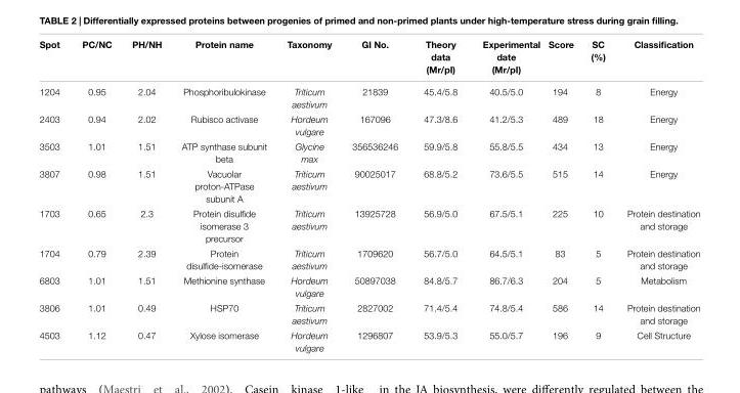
<table><thead><tr><td>Spot</td><td>PC/NC</td><td>PH/NH</td><td>Protein name</td><td>Taxonomy</td><td>GI No.</td><td>Theory data (Mr/pI)</td><td>Experimental date (Mr/pI)</td><td>Score</td><td>SC (%)</td><td>Classification</td></tr></thead><tbody><tr><td>1204</td><td>0.95</td><td>2.04</td><td>Phosphoribulokinase</td><td>Triticum aestivum</td><td>21839</td><td>45.4/5.8</td><td>40.5/5.0</td><td>194</td><td>8</td><td>Energy</td></tr><tr><td>2403</td><td>0.94</td><td>2.02</td><td>Rubisco activase</td><td>Hordeum vulgare</td><td>167096</td><td>47.3/8.6</td><td>41.2/5.3</td><td>489</td><td>18</td><td>Energy</td></tr><tr><td>3503</td><td>1.01</td><td>1.51</td><td>ATP synthase subunit beta</td><td>Glycine max</td><td>356536246</td><td>59.9/5.8</td><td>55.8/5.5</td><td>434</td><td>13</td><td>Energy</td></tr><tr><td>3807</td><td>0.98</td><td>1.51</td><td>Vacuolar proton-ATPase subunit A</td><td>Triticum aestivum</td><td>90025017</td><td>68.8/5.2</td><td>73.6/5.5</td><td>515</td><td>14</td><td>Energy</td></tr><tr><td>1703</td><td>0.65</td><td>2.3</td><td>Protein disulfide isomerase 3 precursor</td><td>Triticum aestivum</td><td>13925728</td><td>56.9/5.0</td><td>67.5/5.1</td><td>225</td><td>10</td><td>Protein destination and storage</td></tr><tr><td>1704</td><td>0.79</td><td>2.39</td><td>Protein disulfide-isomerase</td><td>Triticum aestivum</td><td>1709620</td><td>56.7/5.0</td><td>64.5/5.1</td><td>83</td><td>5</td><td>Protein destination and storage</td></tr><tr><td>6803</td><td>1.01</td><td>1.51</td><td>Methionine synthase</td><td>Hordeum vulgare</td><td>50897038</td><td>84.8/5.7</td><td>86.7/6.3</td><td>204</td><td>5</td><td>Metabolism</td></tr><tr><td>3806</td><td>1.01</td><td>0.49</td><td>HSP70</td><td>Triticum aestivum</td><td>2827002</td><td>71.4/5.4</td><td>74.8/5.4</td><td>586</td><td>14</td><td>Protein destination and storage</td></tr><tr><td>4503</td><td>1.12</td><td>0.47</td><td>Xylose isomerase</td><td>Hordeum vulgare</td><td>1296807</td><td>53.9/5.3</td><td>55.0/5.7</td><td>196</td><td>9</td><td>Cell Structure</td></tr></tbody></table>